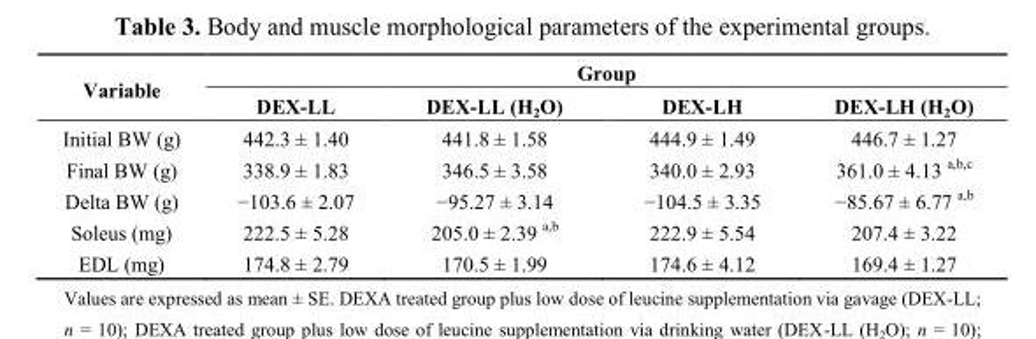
<table><thead><tr><td rowspan="2">Variable</td><td colspan="4">Group</td></tr><tr><td>DEX-LL</td><td>DEX-LL (H<sub>2</sub>O)</td><td>DEX-LH</td><td>DEX-LH (H<sub>2</sub>O)</td></tr></thead><tbody><tr><td>Initial BW (g)</td><td>442.3 ± 1.40</td><td>441.8 ± 1.58</td><td>444.9 ± 1.49</td><td>446.7 ± 1.27</td></tr><tr><td>Final BW (g)</td><td>338.9 ± 1.83</td><td>346.5 ± 3.58</td><td>340.0 ± 2.93</td><td>361.0 ± 4.13 <sup>a,b,c</sup></td></tr><tr><td>Delta BW (g)</td><td>−103.6 ± 2.07</td><td>−95.27 ± 3.14</td><td>−104.5 ± 3.35</td><td>−85.67 ± 6.77 <sup>a,b</sup></td></tr><tr><td>Soleus (mg)</td><td>222.5 ± 5.28</td><td>205.0 ± 2.39 <sup>a,b</sup></td><td>222.9 ± 5.54</td><td>207.4 ± 3.22</td></tr><tr><td>EDL (mg)</td><td>174.8 ± 2.79</td><td>170.5 ± 1.99</td><td>174.6 ± 4.12</td><td>169.4 ± 1.27</td></tr></tbody></table>